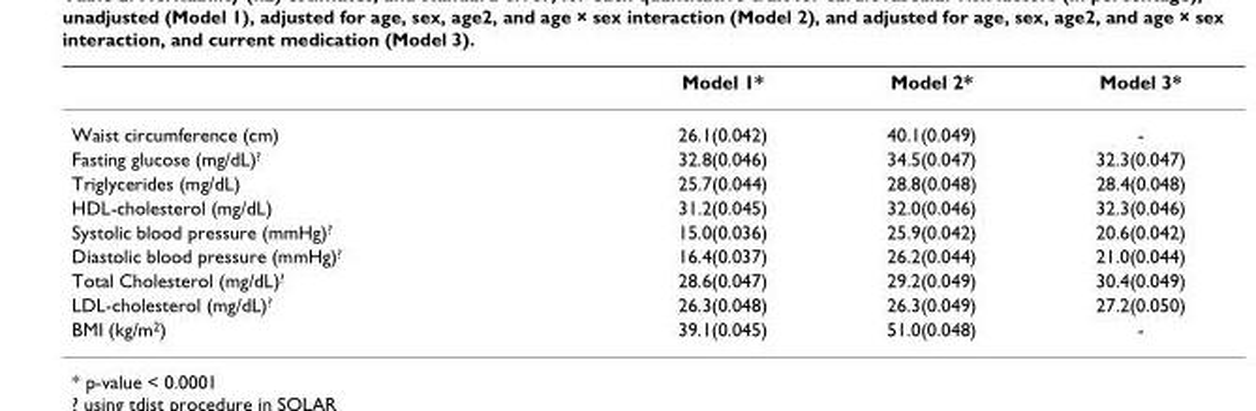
<table><thead><tr><td></td><td>Model 1*</td><td>Model 2*</td><td>Model 3*</td></tr></thead><tbody><tr><td>Waist circumference (cm)</td><td>26.1(0.042)</td><td>40.1(0.049)</td><td>-</td></tr><tr><td>Fasting glucose (mg/dL)?</td><td>32.8(0.046)</td><td>34.5(0.047)</td><td>32.3(0.047)</td></tr><tr><td>Triglycerides (mg/dL)</td><td>25.7(0.044)</td><td>28.8(0.048)</td><td>28.4(0.048)</td></tr><tr><td>HDL-cholesterol (mg/dL)</td><td>31.2(0.045)</td><td>32.0(0.046)</td><td>32.3(0.046)</td></tr><tr><td>Systolic blood pressure (mmHg)?</td><td>15.0(0.036)</td><td>25.9(0.042)</td><td>20.6(0.042)</td></tr><tr><td>Diastolic blood pressure (mmHg)?</td><td>16.4(0.037)</td><td>26.2(0.044)</td><td>21.0(0.044)</td></tr><tr><td>Total Cholesterol (mg/dL)?</td><td>28.6(0.047)</td><td>29.2(0.049)</td><td>30.4(0.049)</td></tr><tr><td>LDL-cholesterol (mg/dL)?</td><td>26.3(0.048)</td><td>26.3(0.049)</td><td>27.2(0.050)</td></tr><tr><td>BMI (kg/m<sup>2</sup>)</td><td>39.1(0.045)</td><td>51.0(0.048)</td><td>-</td></tr></tbody></table>